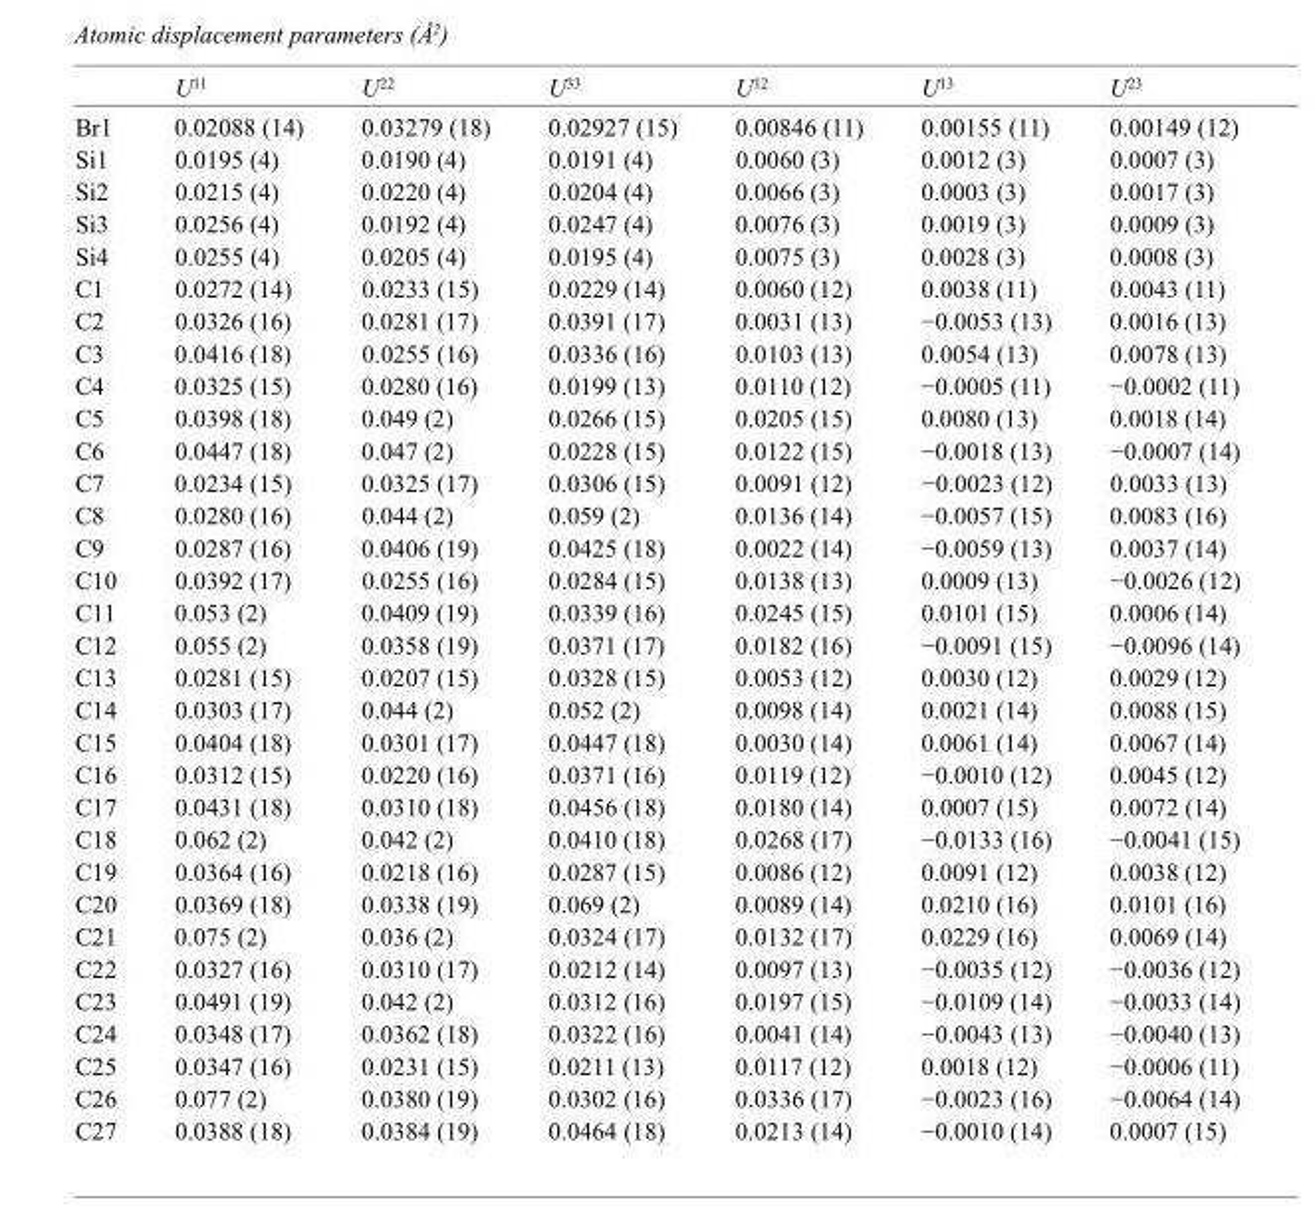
<table><thead><tr><td></td><td>U<sup>11</sup></td><td>U<sup>22</sup></td><td>U<sup>33</sup></td><td>U<sup>12</sup></td><td>U<sup>13</sup></td><td>U<sup>23</sup></td></tr></thead><tbody><tr><td>Br1</td><td>0.02088 (14)</td><td>0.03279 (18)</td><td>0.02927 (15)</td><td>0.00846 (11)</td><td>0.00155 (11)</td><td>0.00149 (12)</td></tr><tr><td>Si1</td><td>0.0195 (4)</td><td>0.0190 (4)</td><td>0.0191 (4)</td><td>0.0060 (3)</td><td>0.0012 (3)</td><td>0.0007 (3)</td></tr><tr><td>Si2</td><td>0.0215 (4)</td><td>0.0220 (4)</td><td>0.0204 (4)</td><td>0.0066 (3)</td><td>0.0003 (3)</td><td>0.0017 (3)</td></tr><tr><td>Si3</td><td>0.0256 (4)</td><td>0.0192 (4)</td><td>0.0247 (4)</td><td>0.0076 (3)</td><td>0.0019 (3)</td><td>0.0009 (3)</td></tr><tr><td>Si4</td><td>0.0255 (4)</td><td>0.0205 (4)</td><td>0.0195 (4)</td><td>0.0075 (3)</td><td>0.0028 (3)</td><td>0.0008 (3)</td></tr><tr><td>C1</td><td>0.0272 (14)</td><td>0.0233 (15)</td><td>0.0229 (14)</td><td>0.0060 (12)</td><td>0.0038 (11)</td><td>0.0043 (11)</td></tr><tr><td>C2</td><td>0.0326 (16)</td><td>0.0281 (17)</td><td>0.0391 (17)</td><td>0.0031 (13)</td><td>−0.0053 (13)</td><td>0.0016 (13)</td></tr><tr><td>C3</td><td>0.0416 (18)</td><td>0.0255 (16)</td><td>0.0336 (16)</td><td>0.0103 (13)</td><td>0.0054 (13)</td><td>0.0078 (13)</td></tr><tr><td>C4</td><td>0.0325 (15)</td><td>0.0280 (16)</td><td>0.0199 (13)</td><td>0.0110 (12)</td><td>−0.0005 (11)</td><td>−0.0002 (11)</td></tr><tr><td>C5</td><td>0.0398 (18)</td><td>0.049 (2)</td><td>0.0266 (15)</td><td>0.0205 (15)</td><td>0.0080 (13)</td><td>0.0018 (14)</td></tr><tr><td>C6</td><td>0.0447 (18)</td><td>0.047 (2)</td><td>0.0228 (15)</td><td>0.0122 (15)</td><td>−0.0018 (13)</td><td>−0.0007 (14)</td></tr><tr><td>C7</td><td>0.0234 (15)</td><td>0.0325 (17)</td><td>0.0306 (15)</td><td>0.0091 (12)</td><td>−0.0023 (12)</td><td>0.0033 (13)</td></tr><tr><td>C8</td><td>0.0280 (16)</td><td>0.044 (2)</td><td>0.059 (2)</td><td>0.0136 (14)</td><td>−0.0057 (15)</td><td>0.0083 (16)</td></tr><tr><td>C9</td><td>0.0287 (16)</td><td>0.0406 (19)</td><td>0.0425 (18)</td><td>0.0022 (14)</td><td>−0.0059 (13)</td><td>0.0037 (14)</td></tr><tr><td>C10</td><td>0.0392 (17)</td><td>0.0255 (16)</td><td>0.0284 (15)</td><td>0.0138 (13)</td><td>0.0009 (13)</td><td>−0.0026 (12)</td></tr><tr><td>C11</td><td>0.053 (2)</td><td>0.0409 (19)</td><td>0.0339 (16)</td><td>0.0245 (15)</td><td>0.0101 (15)</td><td>0.0006 (14)</td></tr><tr><td>C12</td><td>0.055 (2)</td><td>0.0358 (19)</td><td>0.0371 (17)</td><td>0.0182 (16)</td><td>−0.0091 (15)</td><td>−0.0096 (14)</td></tr><tr><td>C13</td><td>0.0281 (15)</td><td>0.0207 (15)</td><td>0.0328 (15)</td><td>0.0053 (12)</td><td>0.0030 (12)</td><td>0.0029 (12)</td></tr><tr><td>C14</td><td>0.0303 (17)</td><td>0.044 (2)</td><td>0.052 (2)</td><td>0.0098 (14)</td><td>0.0021 (14)</td><td>0.0088 (15)</td></tr><tr><td>C15</td><td>0.0404 (18)</td><td>0.0301 (17)</td><td>0.0447 (18)</td><td>0.0030 (14)</td><td>0.0061 (14)</td><td>0.0067 (14)</td></tr><tr><td>C16</td><td>0.0312 (15)</td><td>0.0220 (16)</td><td>0.0371 (16)</td><td>0.0119 (12)</td><td>−0.0010 (12)</td><td>0.0045 (12)</td></tr><tr><td>C17</td><td>0.0431 (18)</td><td>0.0310 (18)</td><td>0.0456 (18)</td><td>0.0180 (14)</td><td>0.0007 (15)</td><td>0.0072 (14)</td></tr><tr><td>C18</td><td>0.062 (2)</td><td>0.042 (2)</td><td>0.0410 (18)</td><td>0.0268 (17)</td><td>−0.0133 (16)</td><td>−0.0041 (15)</td></tr><tr><td>C19</td><td>0.0364 (16)</td><td>0.0218 (16)</td><td>0.0287 (15)</td><td>0.0086 (12)</td><td>0.0091 (12)</td><td>0.0038 (12)</td></tr><tr><td>C20</td><td>0.0369 (18)</td><td>0.0338 (19)</td><td>0.069 (2)</td><td>0.0089 (14)</td><td>0.0210 (16)</td><td>0.0101 (16)</td></tr><tr><td>C21</td><td>0.075 (2)</td><td>0.036 (2)</td><td>0.0324 (17)</td><td>0.0132 (17)</td><td>0.0229 (16)</td><td>0.0069 (14)</td></tr><tr><td>C22</td><td>0.0327 (16)</td><td>0.0310 (17)</td><td>0.0212 (14)</td><td>0.0097 (13)</td><td>−0.0035 (12)</td><td>−0.0036 (12)</td></tr><tr><td>C23</td><td>0.0491 (19)</td><td>0.042 (2)</td><td>0.0312 (16)</td><td>0.0197 (15)</td><td>−0.0109 (14)</td><td>−0.0033 (14)</td></tr><tr><td>C24</td><td>0.0348 (17)</td><td>0.0362 (18)</td><td>0.0322 (16)</td><td>0.0041 (14)</td><td>−0.0043 (13)</td><td>−0.0040 (13)</td></tr><tr><td>C25</td><td>0.0347 (16)</td><td>0.0231 (15)</td><td>0.0211 (13)</td><td>0.0117 (12)</td><td>0.0018 (12)</td><td>−0.0006 (11)</td></tr><tr><td>C26</td><td>0.077 (2)</td><td>0.0380 (19)</td><td>0.0302 (16)</td><td>0.0336 (17)</td><td>−0.0023 (16)</td><td>−0.0064 (14)</td></tr><tr><td>C27</td><td>0.0388 (18)</td><td>0.0384 (19)</td><td>0.0464 (18)</td><td>0.0213 (14)</td><td>−0.0010 (14)</td><td>0.0007 (15)</td></tr></tbody></table>